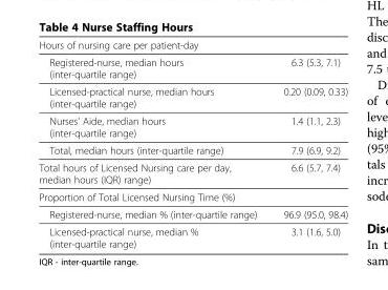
<table><thead><tr><td>Hours of nursing care per patient-day</td><td></td></tr></thead><tbody><tr><td>Registered-nurse, median hours (inter-quartile range)</td><td>6.3 (5.3, 7.1)</td></tr><tr><td>Licensed-practical nurse, median hours (inter-quartile range)</td><td>0.20 (0.09, 0.33)</td></tr><tr><td>Nurses&#x27; Aide, median hours (inter-quartile range)</td><td>1.4 (1.1, 2.3)</td></tr><tr><td>Total, median hours (inter-quartile range)</td><td>7.9 (6.9, 9.2)</td></tr><tr><td>Total hours of Licensed Nursing care per day, median hours (IQR) range)</td><td>6.6 (5.7, 7.4)</td></tr><tr><td colspan="2">Proportion of Total Licensed Nursing Time (%)</td></tr><tr><td>Registered-nurse, median % (inter-quartile range)</td><td>96.9 (95.0, 98.4)</td></tr><tr><td>Licensed-practical nurse, median % (inter-quartile range)</td><td>3.1 (1.6, 5.0)</td></tr></tbody></table>